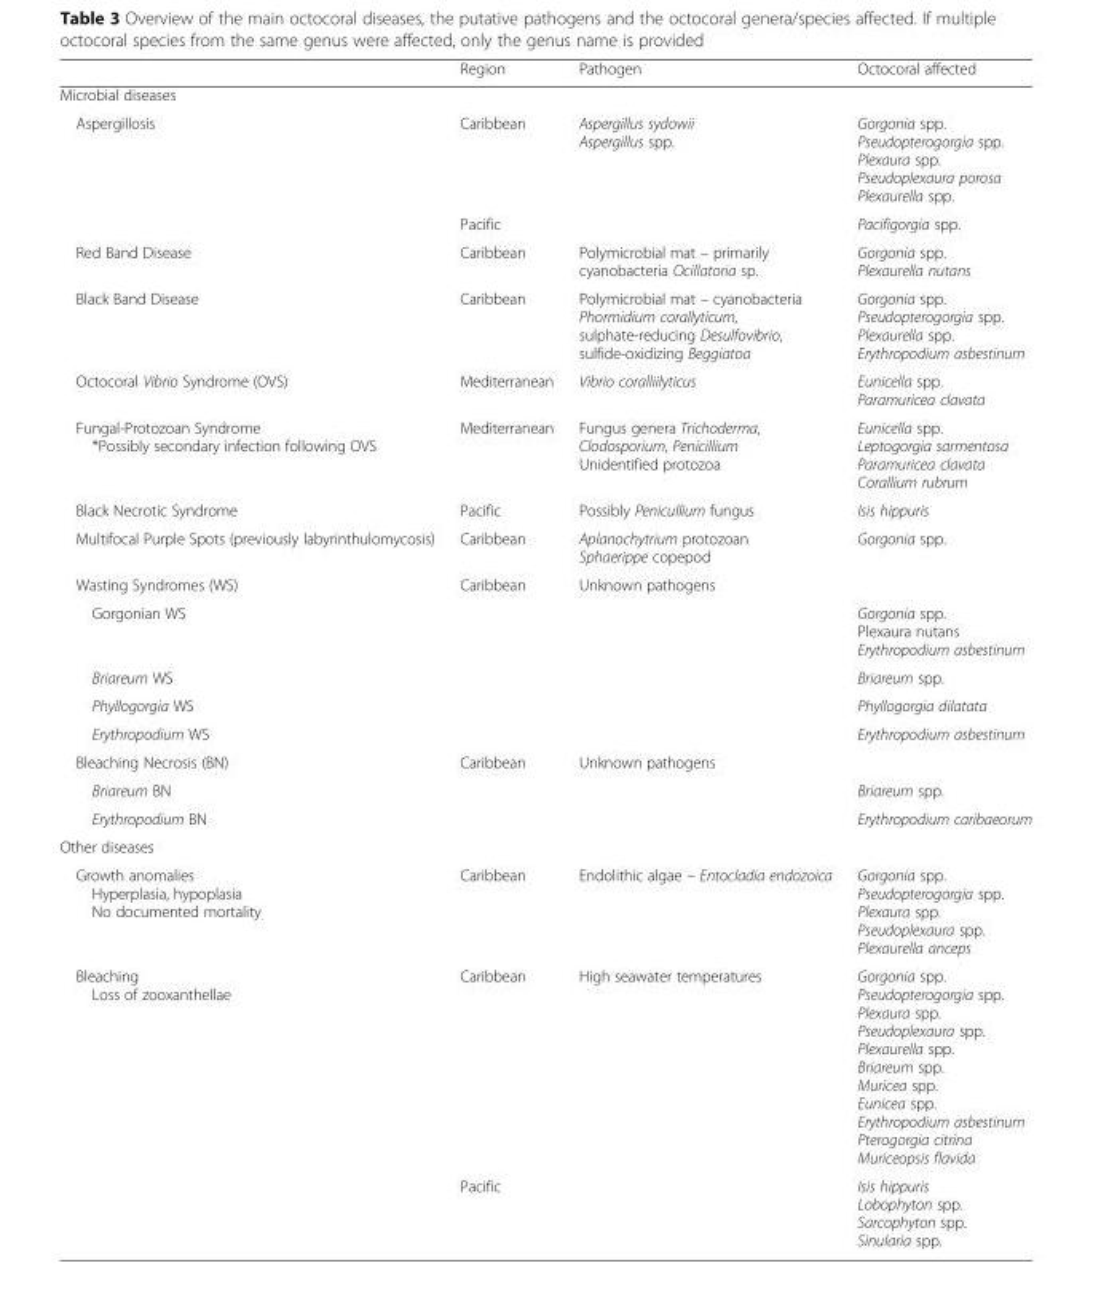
<table><thead><tr><td></td><td>Region</td><td>Pathogen</td><td>Octocoral affected</td></tr></thead><tbody><tr><td colspan="4">Microbial diseases</td></tr><tr><td rowspan="2">Aspergillosis</td><td>Caribbean</td><td>Aspergillus sydowii Aspergillus spp.</td><td>Gorgonia spp. Pseudopterogorgia spp. Plexaura spp. Pseudoplexaura porosa Plexaurella spp.</td></tr><tr><td>Pacific</td><td></td><td>Pacifigorgia spp.</td></tr><tr><td>Red Band Disease</td><td>Caribbean</td><td>Polymicrobial mat – primarily cyanobacteria Ocillatoria sp.</td><td>Gorgonia spp. Plexaurella nutans</td></tr><tr><td>Black Band Disease</td><td>Caribbean</td><td>Polymicrobial mat – cyanobacteria Phormidium corallyticum, sulphate-reducing Desulfovibrio, sulfide-oxidizing Beggiatoa</td><td>Gorgonia spp. Pseudopterogorgia spp. Plexaurella spp. Erythropodium asbestinum</td></tr><tr><td>Octocoral Vibrio Syndrome (OVS)</td><td>Mediterranean</td><td>Vibrio coralliilyticus</td><td>Eunicella spp. Paramuricea clavata</td></tr><tr><td>Fungal-Protozoan Syndrome *Possibly secondary infection following OVS</td><td>Mediterranean</td><td>Fungus genera Trichoderma, Clodosporium, Penicillium Unidentified protozoa</td><td>Eunicella spp. Leptogorgia sarmentosa Paramuricea clavata Corallium rubrum</td></tr><tr><td>Black Necrotic Syndrome</td><td>Pacific</td><td>Possibly Penicullium fungus</td><td>Isis hippuris</td></tr><tr><td>Multifocal Purple Spots (previously labyrinthulomycosis)</td><td>Caribbean</td><td>Aplanochytrium protozoan Sphaerippe copepod</td><td>Gorgonia spp.</td></tr><tr><td>Wasting Syndromes (WS)</td><td>Caribbean</td><td>Unknown pathogens</td><td></td></tr><tr><td>Gorgonian WS</td><td></td><td></td><td>Gorgonia spp. Plexaura nutans Erythropodium asbestinum</td></tr><tr><td>Briareum WS</td><td></td><td></td><td>Briareum spp.</td></tr><tr><td>Phyllogorgia WS</td><td></td><td></td><td>Phyllogorgia dilatata</td></tr><tr><td>Erythropodium WS</td><td></td><td></td><td>Erythropodium asbestinum</td></tr><tr><td>Bleaching Necrosis (BN)</td><td>Caribbean</td><td>Unknown pathogens</td><td></td></tr><tr><td>Briareum BN</td><td></td><td></td><td>Briareum spp.</td></tr><tr><td>Erythropodium BN</td><td></td><td></td><td>Erythropodium caribaeorum</td></tr><tr><td colspan="4">Other diseases</td></tr><tr><td>Growth anomalies Hyperplasia, hypoplasia No documented mortality</td><td>Caribbean</td><td>Endolithic algae – Entocladia endozoica</td><td>Gorgonia spp. Pseudopterogorgia spp. Plexaura spp. Pseudoplexaura spp. Plexaurella anceps</td></tr><tr><td rowspan="2">Bleaching Loss of zooxanthellae</td><td>Caribbean</td><td>High seawater temperatures</td><td>Gorgonia spp. Pseudopterogorgia spp. Plexaura spp. Pseudoplexaura spp. Plexaurella spp. Briareum spp. Muricea spp. Eunicea spp. Erythropodium asbestinum Pterogorgia citrina Muriceopsis flavida</td></tr><tr><td>Pacific</td><td></td><td>Isis hippuris Lobophyton spp. Sarcophyton spp. Sinularia spp.</td></tr></tbody></table>